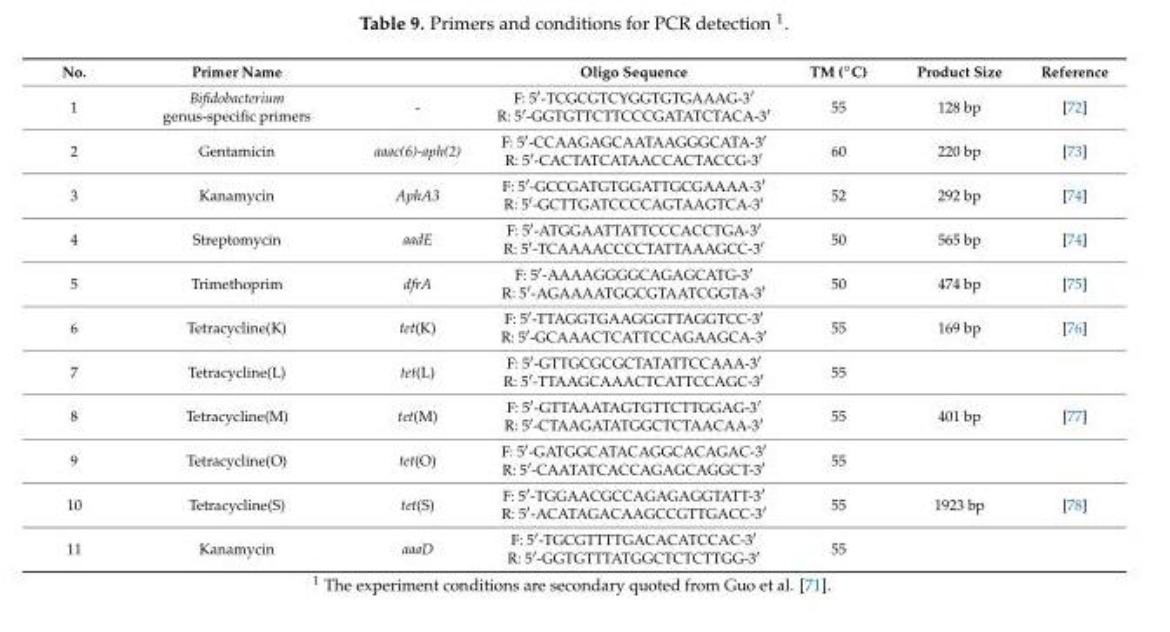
<table><thead><tr><td>No.</td><td>Primer Name</td><td></td><td>Oligo Sequence</td><td>TM (◦C)</td><td>Product Size</td><td>Reference</td></tr></thead><tbody><tr><td>1</td><td>Bifidobacterium genus-specific primers</td><td>-</td><td>F: 5′-TCGCGTCYGGTGTGAAAG-3′ R: 5′-GGTGTTCTTCCCGATATCTACA-3′</td><td>55</td><td>128 bp</td><td>[72]</td></tr><tr><td>2</td><td>Gentamicin</td><td>aaac(6)-aph(2)</td><td>F: 5′-CCAAGAGCAATAAGGGCATA-3′ R: 5′-CACTATCATAACCACTACCG-3′</td><td>60</td><td>220 bp</td><td>[73]</td></tr><tr><td>3</td><td>Kanamycin</td><td>AphA3</td><td>F: 5′-GCCGATGTGGATTGCGAAAA-3′ R: 5′-GCTTGATCCCCAGTAAGTCA-3′</td><td>52</td><td>292 bp</td><td>[74]</td></tr><tr><td>4</td><td>Streptomycin</td><td>aadE</td><td>F: 5′-ATGGAATTATTCCCACCTGA-3′ R: 5′-TCAAAACCCCTATTAAAGCC-3′</td><td>50</td><td>565 bp</td><td>[74]</td></tr><tr><td>5</td><td>Trimethoprim</td><td>dfrA</td><td>F: 5′-AAAAGGGGCAGAGCATG-3′ R: 5′-AGAAAATGGCGTAATCGGTA-3′</td><td>50</td><td>474 bp</td><td>[75]</td></tr><tr><td>6</td><td>Tetracycline(K)</td><td>tet(K)</td><td>F: 5′-TTAGGTGAAGGGTTAGGTCC-3′ R: 5′-GCAAACTCATTCCAGAAGCA-3′</td><td>55</td><td>169 bp</td><td>[76]</td></tr><tr><td>7</td><td>Tetracycline(L)</td><td>tet(L)</td><td>F: 5′-GTTGCGCGCTATATTCCAAA-3′ R: 5′-TTAAGCAAACTCATTCCAGC-3′</td><td>55</td><td></td><td></td></tr><tr><td>8</td><td>Tetracycline(M)</td><td>tet(M)</td><td>F: 5′-GTTAAATAGTGTTCTTGGAG-3′ R: 5′-CTAAGATATGGCTCTAACAA-3′</td><td>55</td><td>401 bp</td><td>[77]</td></tr><tr><td>9</td><td>Tetracycline(O)</td><td>tet(O)</td><td>F: 5′-GATGGCATACAGGCACAGAC-3′ R: 5′-CAATATCACCAGAGCAGGCT-3′</td><td>55</td><td></td><td></td></tr><tr><td>10</td><td>Tetracycline(S)</td><td>tet(S)</td><td>F: 5′-TGGAACGCCAGAGAGGTATT-3′ R: 5′-ACATAGACAAGCCGTTGACC-3′</td><td>55</td><td>1923 bp</td><td>[78]</td></tr><tr><td>11</td><td>Kanamycin</td><td>aaaD</td><td>F: 5′-TGCGTTTTGACACATCCAC-3′ R: 5′-GGTGTTTATGGCTCTCTTGG-3′</td><td>55</td><td></td><td></td></tr></tbody></table>